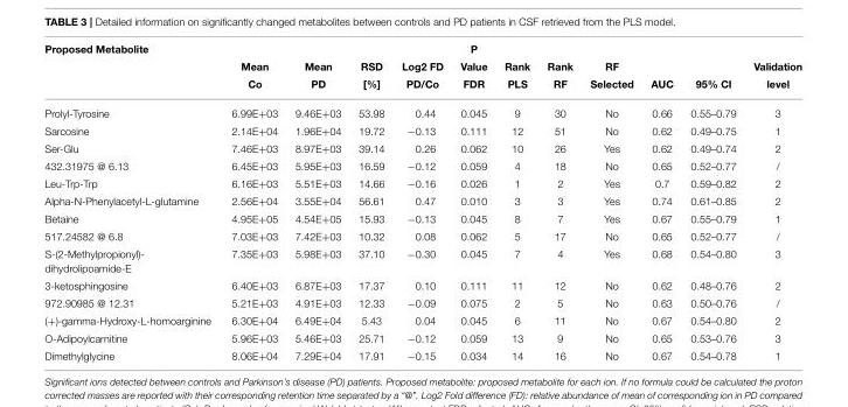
<table><thead><tr><td rowspan="3">Proposed Metabolite</td><td rowspan="3">Mean Co</td><td rowspan="3">Mean PD</td><td rowspan="3">RSD [%]</td><td rowspan="3">Log2 FD PD/Co</td><td rowspan="3">P Value FDR</td><td rowspan="3">Rank PLS</td><td rowspan="3">Rank RF</td><td rowspan="3">RF Selected</td><td rowspan="3">AUC</td><td rowspan="3">95% CI</td><td rowspan="3">Validation level</td></tr><tr></tr><tr></tr></thead><tbody><tr><td>Prolyl-Tyrosine</td><td>6.99E+03</td><td>9.46E+03</td><td>53.98</td><td>0.44</td><td>0.045</td><td>9</td><td>30</td><td>No</td><td>0.66</td><td>0.55–0.79</td><td>3</td></tr><tr><td>Sarcosine</td><td>2.14E+04</td><td>1.96E+04</td><td>19.72</td><td>−0.13</td><td>0.111</td><td>12</td><td>51</td><td>No</td><td>0.62</td><td>0.49–0.75</td><td>1</td></tr><tr><td>Ser-Glu</td><td>7.46E+03</td><td>8.97E+03</td><td>39.14</td><td>0.26</td><td>0.062</td><td>10</td><td>26</td><td>Yes</td><td>0.62</td><td>0.49–0.74</td><td>2</td></tr><tr><td>432.31975 @ 6.13</td><td>6.45E+03</td><td>5.95E+03</td><td>16.59</td><td>−0.12</td><td>0.059</td><td>4</td><td>18</td><td>No</td><td>0.65</td><td>0.52–0.77</td><td>/</td></tr><tr><td>Leu-Trp-Trp</td><td>6.16E+03</td><td>5.51E+03</td><td>14.66</td><td>−0.16</td><td>0.026</td><td>1</td><td>2</td><td>Yes</td><td>0.7</td><td>0.59–0.82</td><td>2</td></tr><tr><td>Alpha-N-Phenylacetyl-L-glutamine</td><td>2.56E+04</td><td>3.55E+04</td><td>56.61</td><td>0.47</td><td>0.010</td><td>3</td><td>3</td><td>Yes</td><td>0.74</td><td>0.61–0.85</td><td>2</td></tr><tr><td>Betaine</td><td>4.95E+05</td><td>4.54E+05</td><td>15.93</td><td>−0.13</td><td>0.045</td><td>8</td><td>7</td><td>Yes</td><td>0.67</td><td>0.55–0.79</td><td>1</td></tr><tr><td>517.24582 @ 6.8</td><td>7.03E+03</td><td>7.42E+03</td><td>10.32</td><td>0.08</td><td>0.062</td><td>5</td><td>17</td><td>No</td><td>0.65</td><td>0.52–0.77</td><td>/</td></tr><tr><td>S-(2-Methylpropionyl)- dihydrolipoamide-E</td><td>7.35E+03</td><td>5.98E+03</td><td>37.10</td><td>−0.30</td><td>0.045</td><td>7</td><td>4</td><td>Yes</td><td>0.68</td><td>0.54–0.80</td><td>3</td></tr><tr><td>3-ketosphingosine</td><td>6.40E+03</td><td>6.87E+03</td><td>17.37</td><td>0.10</td><td>0.111</td><td>11</td><td>12</td><td>No</td><td>0.62</td><td>0.48–0.76</td><td>2</td></tr><tr><td>972.90985 @ 12.31</td><td>5.21E+03</td><td>4.91E+03</td><td>12.33</td><td>−0.09</td><td>0.075</td><td>2</td><td>5</td><td>No</td><td>0.63</td><td>0.50–0.76</td><td>/</td></tr><tr><td>(+)-gamma-Hydroxy-L-homoarginine</td><td>6.30E+04</td><td>6.49E+04</td><td>5.43</td><td>0.04</td><td>0.045</td><td>6</td><td>11</td><td>No</td><td>0.67</td><td>0.54–0.80</td><td>2</td></tr><tr><td>O-Adipoylcarnitine</td><td>5.96E+03</td><td>5.46E+03</td><td>25.71</td><td>−0.12</td><td>0.059</td><td>13</td><td>9</td><td>No</td><td>0.65</td><td>0.53–0.76</td><td>3</td></tr><tr><td>Dimethylglycine</td><td>8.06E+04</td><td>7.29E+04</td><td>17.91</td><td>−0.15</td><td>0.034</td><td>14</td><td>16</td><td>No</td><td>0.67</td><td>0.54–0.78</td><td>1</td></tr></tbody></table>